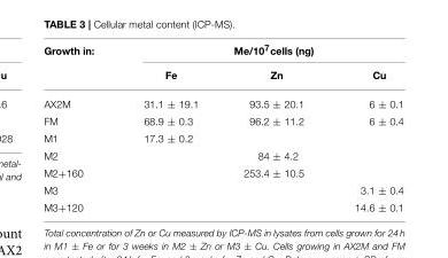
<table><thead><tr><td rowspan="2">Growth in:</td><td colspan="3">Me/10<sup>7</sup>cells (ng)</td></tr><tr><td>Fe</td><td>Zn</td><td>Cu</td></tr></thead><tbody><tr><td>AX2M</td><td>31.1 ± 19.1</td><td>93.5 ± 20.1</td><td>6 ± 0.1</td></tr><tr><td>FM</td><td>68.9 ± 0.3</td><td>96.2 ± 11.2</td><td>6 ± 0.4</td></tr><tr><td>M1</td><td>17.3 ± 0.2</td><td></td><td></td></tr><tr><td>M2</td><td></td><td>84 ± 4.2</td><td></td></tr><tr><td>M2+160</td><td></td><td>253.4 ± 10.5</td><td></td></tr><tr><td>M3</td><td></td><td></td><td>3.1 ± 0.4</td></tr><tr><td>M3+120</td><td></td><td></td><td>14.6 ± 0.1</td></tr></tbody></table>